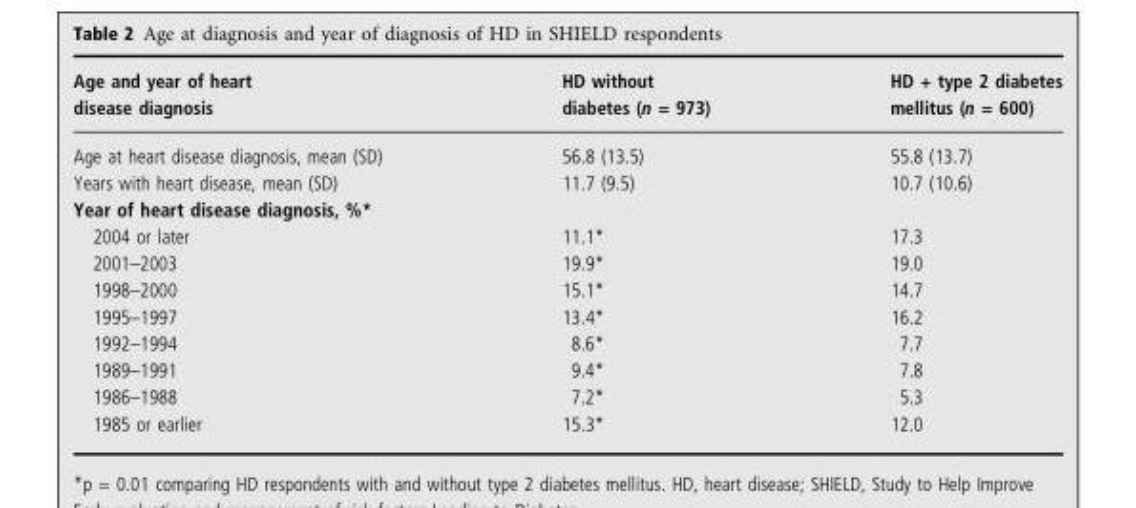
<table><thead><tr><td>Age and year of heart disease diagnosis</td><td>HD without diabetes (n = 973)</td><td>HD + type 2 diabetes mellitus (n = 600)</td></tr></thead><tbody><tr><td>Age at heart disease diagnosis, mean (SD)</td><td>56.8 (13.5)</td><td>55.8 (13.7)</td></tr><tr><td>Years with heart disease, mean (SD)</td><td>11.7 (9.5)</td><td>10.7 (10.6)</td></tr><tr><td colspan="3">Year of heart disease diagnosis, %*</td></tr><tr><td>2004 or later</td><td>11.1*</td><td>17.3</td></tr><tr><td>2001–2003</td><td>19.9*</td><td>19.0</td></tr><tr><td>1998–2000</td><td>15.1*</td><td>14.7</td></tr><tr><td>1995–1997</td><td>13.4*</td><td>16.2</td></tr><tr><td>1992–1994</td><td>8.6*</td><td>7.7</td></tr><tr><td>1989–1991</td><td>9.4*</td><td>7.8</td></tr><tr><td>1986–1988</td><td>7.2*</td><td>5.3</td></tr><tr><td>1985 or earlier</td><td>15.3*</td><td>12.0</td></tr></tbody></table>